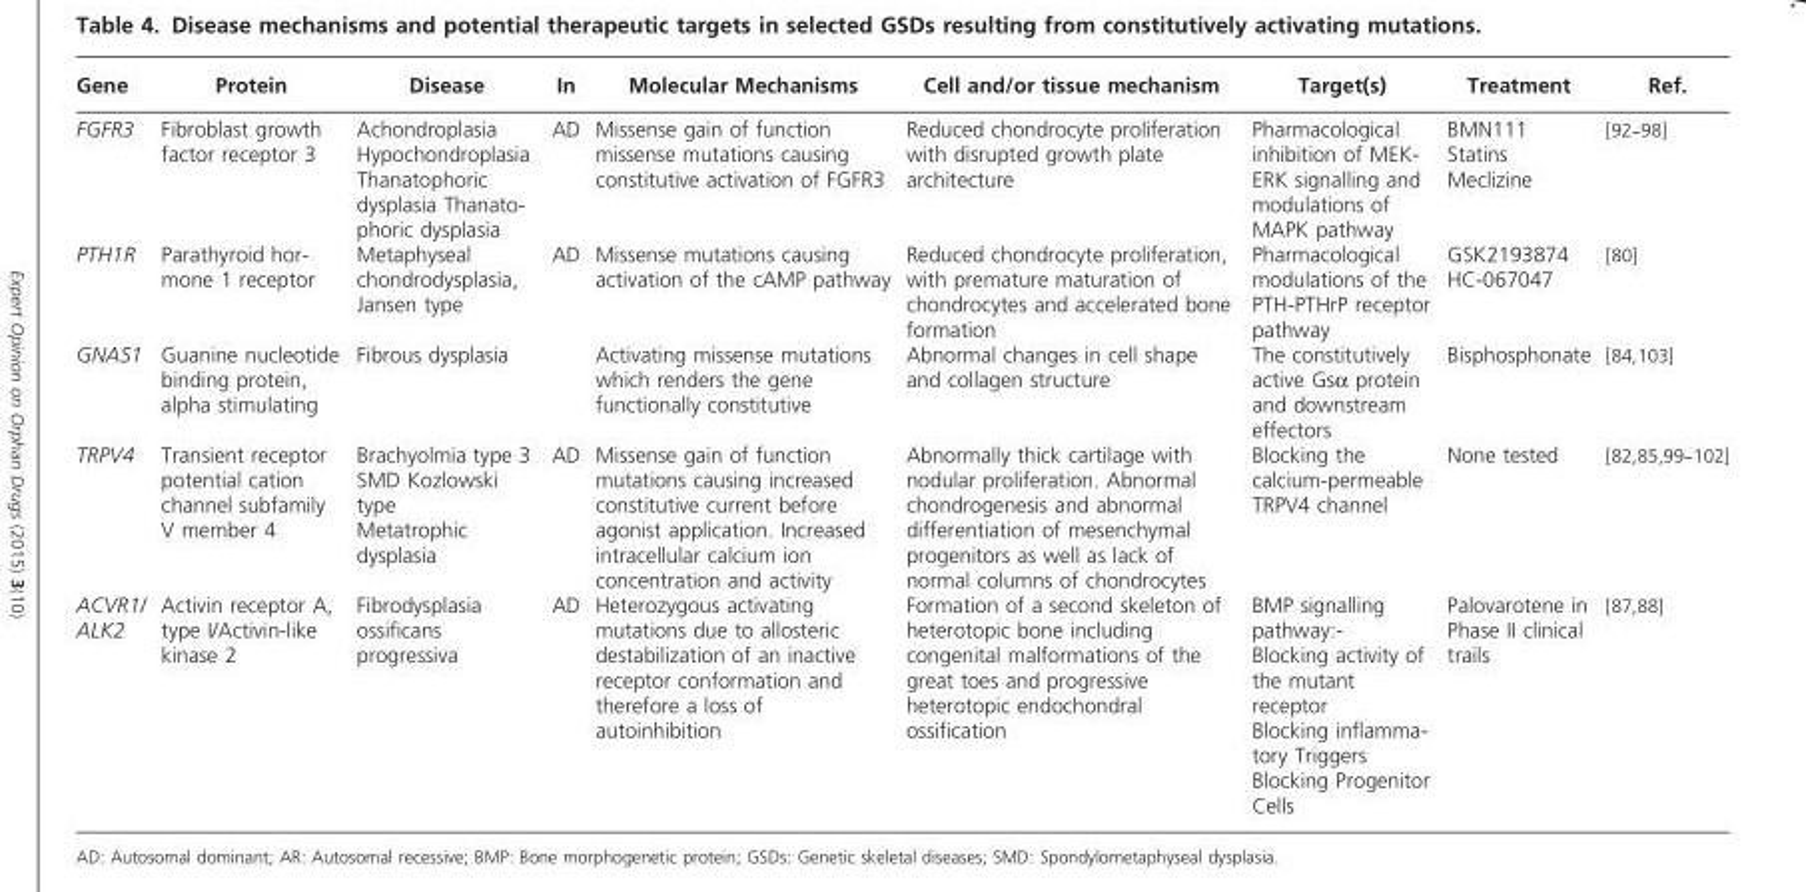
<table><thead><tr><td>Gene</td><td>Protein</td><td>Disease</td><td>In</td><td>Molecular Mechanisms</td><td>Cell and/or tissue mechanism</td><td>Target(s)</td><td>Treatment</td><td>Ref.</td></tr></thead><tbody><tr><td>FGFR3</td><td>Fibroblast growth factor receptor 3</td><td>Achondroplasia Hypochondroplasia Thanatophoric dysplasia Thanato- phoric dysplasia</td><td>AD</td><td>Missense gain of function missense mutations causing constitutive activation of FGFR3</td><td>Reduced chondrocyte proliferation with disrupted growth plate architecture</td><td>Pharmacological inhibition of MEK- ERK signalling and modulations of MAPK pathway</td><td>BMN111 Statins Meclizine</td><td>[92--98]</td></tr><tr><td>PTH1R</td><td>Parathyroid hor- mone 1 receptor</td><td>Metaphyseal chondrodysplasia, Jansen type</td><td>AD</td><td>Missense mutations causing activation of the cAMP pathway</td><td>Reduced chondrocyte proliferation, with premature maturation of chondrocytes and accelerated bone formation</td><td>Pharmacological modulations of the PTH-PTHrP receptor pathway</td><td>GSK2193874 HC-067047</td><td>[80]</td></tr><tr><td>GNAS1</td><td>Guanine nucleotide binding protein, alpha stimulating</td><td>Fibrous dysplasia</td><td></td><td>Activating missense mutations which renders the gene functionally constitutive</td><td>Abnormal changes in cell shape and collagen structure</td><td>The constitutively active Gsα protein and downstream effectors</td><td>Bisphosphonate</td><td>[84,103]</td></tr><tr><td>TRPV4</td><td>Transient receptor potential cation channel subfamily V member 4</td><td>Brachyolmia type 3 SMD Kozlowski type Metatrophic dysplasia</td><td>AD</td><td>Missense gain of function mutations causing increased constitutive current before agonist application. Increased intracellular calcium ion concentration and activity</td><td>Abnormally thick cartilage with nodular proliferation. Abnormal chondrogenesis and abnormal differentiation of mesenchymal progenitors as well as lack of normal columns of chondrocytes</td><td>Blocking the calcium-permeable TRPV4 channel</td><td>None tested</td><td>[82,85,99--102]</td></tr><tr><td>ACVR1/ ALK2</td><td>Activin receptor A, type I/Activin-like kinase 2</td><td>Fibrodysplasia ossificans progressiva</td><td>AD</td><td>Heterozygous activating mutations due to allosteric destabilization of an inactive receptor conformation and therefore a loss of autoinhibition</td><td>Formation of a second skeleton of heterotopic bone including congenital malformations of the great toes and progressive heterotopic endochondral ossification</td><td>BMP signalling pathway:- Blocking activity of the mutant receptor Blocking inflamma- tory Triggers Blocking Progenitor Cells</td><td>Palovarotene in Phase II clinical trails</td><td>[87,88]</td></tr></tbody></table>